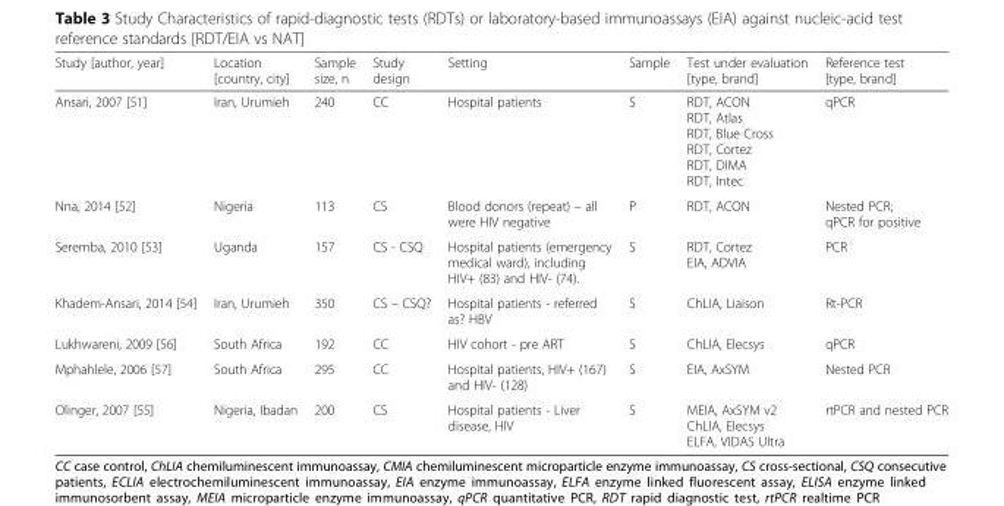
<table><thead><tr><td>Study [author, year]</td><td>Location [country, city]</td><td>Sample size, n</td><td>Study design</td><td>Setting</td><td>Sample</td><td>Test under evaluation [type, brand]</td><td>Reference test [type, brand]</td></tr></thead><tbody><tr><td>Ansari, 2007 [51]</td><td>Iran, Urumieh</td><td>240</td><td>CC</td><td>Hospital patients</td><td>S</td><td>RDT, ACON RDT, Atlas RDT, Blue Cross RDT, Cortez RDT, DIMA RDT, Intec</td><td>qPCR</td></tr><tr><td>Nna, 2014 [52]</td><td>Nigeria</td><td>113</td><td>CS</td><td>Blood donors (repeat) – all were HIV negative</td><td>P</td><td>RDT, ACON</td><td>Nested PCR; qPCR for positive</td></tr><tr><td>Seremba, 2010 [53]</td><td>Uganda</td><td>157</td><td>CS - CSQ</td><td>Hospital patients (emergency medical ward), including HIV+ (83) and HIV- (74).</td><td>S</td><td>RDT, Cortez EIA, ADVIA</td><td>PCR</td></tr><tr><td>Khadem-Ansari, 2014 [54]</td><td>Iran, Urumieh</td><td>350</td><td>CS – CSQ?</td><td>Hospital patients - referred as? HBV</td><td>S</td><td>ChLIA, Liaison</td><td>Rt-PCR</td></tr><tr><td>Lukhwareni, 2009 [56]</td><td>South Africa</td><td>192</td><td>CC</td><td>HIV cohort - pre ART</td><td>S</td><td>ChLIA, Elecsys</td><td>qPCR</td></tr><tr><td>Mphahlele, 2006 [57]</td><td>South Africa</td><td>295</td><td>CC</td><td>Hospital patients, HIV+ (167) and HIV- (128)</td><td>S</td><td>EIA, AxSYM</td><td>Nested PCR</td></tr><tr><td>Olinger, 2007 [55]</td><td>Nigeria, Ibadan</td><td>200</td><td>CS</td><td>Hospital patients - Liver disease, HIV</td><td>S</td><td>MEIA, AxSYM v2 ChLIA, Elecsys ELFA, VIDAS Ultra</td><td>rtPCR and nested PCR</td></tr></tbody></table>